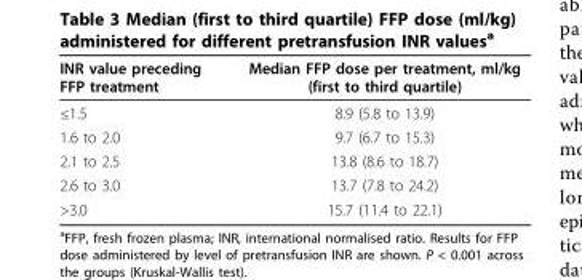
<table><thead><tr><td>INR value preceding FFP treatment</td><td>Median FFP dose per treatment, ml/kg (first to third quartile)</td></tr></thead><tbody><tr><td>≤1.5</td><td>8.9 (5.8 to 13.9)</td></tr><tr><td>1.6 to 2.0</td><td>9.7 (6.7 to 15.3)</td></tr><tr><td>2.1 to 2.5</td><td>13.8 (8.6 to 18.7)</td></tr><tr><td>2.6 to 3.0</td><td>13.7 (7.8 to 24.2)</td></tr><tr><td>&gt;3.0</td><td>15.7 (11.4 to 22.1)</td></tr></tbody></table>